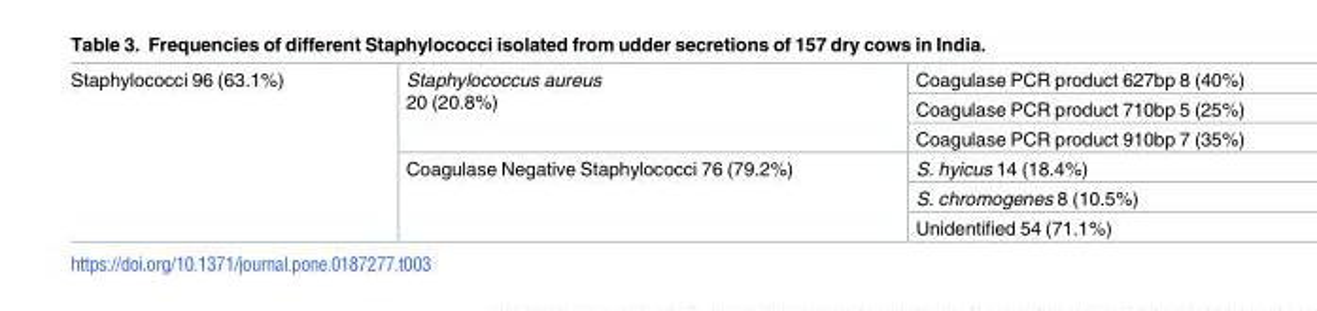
<table><tbody><tr><td rowspan="6">Staphylococci 96 (63.1%)</td><td rowspan="3">Staphylococcus aureus 20 (20.8%)</td><td>Coagulase PCR product 627bp 8 (40%)</td></tr><tr><td>Coagulase PCR product 710bp 5 (25%)</td></tr><tr><td>Coagulase PCR product 910bp 7 (35%)</td></tr><tr><td rowspan="3">Coagulase Negative Staphylococci 76 (79.2%)</td><td>S. hyicus 14 (18.4%)</td></tr><tr><td>S. chromogenes 8 (10.5%)</td></tr><tr><td>Unidentified 54 (71.1%)</td></tr></tbody></table>